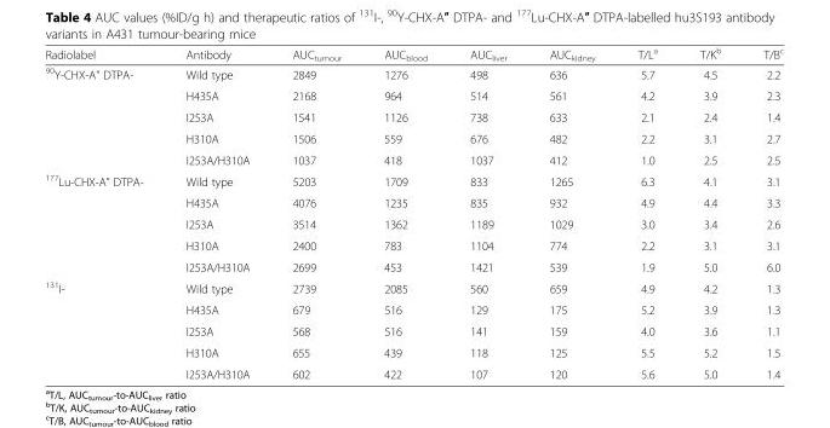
<table><thead><tr><td>Radiolabel</td><td>Antibody</td><td>AUC<sub>tumour</sub></td><td>AUC<sub>blood</sub></td><td>AUC<sub>liver</sub></td><td>AUC<sub>kidney</sub></td><td>T/L<sup>a</sup></td><td>T/K<sup>b</sup></td><td>T/B<sup>c</sup></td></tr></thead><tbody><tr><td rowspan="5"><sup>90</sup>Y-CHX-A&quot; DTPA-</td><td>Wild type</td><td>2849</td><td>1276</td><td>498</td><td>636</td><td>5.7</td><td>4.5</td><td>2.2</td></tr><tr><td>H435A</td><td>2168</td><td>964</td><td>514</td><td>561</td><td>4.2</td><td>3.9</td><td>2.3</td></tr><tr><td>I253A</td><td>1541</td><td>1126</td><td>738</td><td>633</td><td>2.1</td><td>2.4</td><td>1.4</td></tr><tr><td>H310A</td><td>1506</td><td>559</td><td>676</td><td>482</td><td>2.2</td><td>3.1</td><td>2.7</td></tr><tr><td>I253A/H310A</td><td>1037</td><td>418</td><td>1037</td><td>412</td><td>1.0</td><td>2.5</td><td>2.5</td></tr><tr><td rowspan="5"><sup>177</sup>Lu-CHX-A&quot; DTPA-</td><td>Wild type</td><td>5203</td><td>1709</td><td>833</td><td>1265</td><td>6.3</td><td>4.1</td><td>3.1</td></tr><tr><td>H435A</td><td>4076</td><td>1235</td><td>835</td><td>932</td><td>4.9</td><td>4.4</td><td>3.3</td></tr><tr><td>I253A</td><td>3514</td><td>1362</td><td>1189</td><td>1029</td><td>3.0</td><td>3.4</td><td>2.6</td></tr><tr><td>H310A</td><td>2400</td><td>783</td><td>1104</td><td>774</td><td>2.2</td><td>3.1</td><td>3.1</td></tr><tr><td>I253A/H310A</td><td>2699</td><td>453</td><td>1421</td><td>539</td><td>1.9</td><td>5.0</td><td>6.0</td></tr><tr><td rowspan="5"><sup>131</sup>I-</td><td>Wild type</td><td>2739</td><td>2085</td><td>560</td><td>659</td><td>4.9</td><td>4.2</td><td>1.3</td></tr><tr><td>H435A</td><td>679</td><td>516</td><td>129</td><td>175</td><td>5.2</td><td>3.9</td><td>1.3</td></tr><tr><td>I253A</td><td>568</td><td>516</td><td>141</td><td>159</td><td>4.0</td><td>3.6</td><td>1.1</td></tr><tr><td>H310A</td><td>655</td><td>439</td><td>118</td><td>125</td><td>5.5</td><td>5.2</td><td>1.5</td></tr><tr><td>I253A/H310A</td><td>602</td><td>422</td><td>107</td><td>120</td><td>5.6</td><td>5.0</td><td>1.4</td></tr></tbody></table>